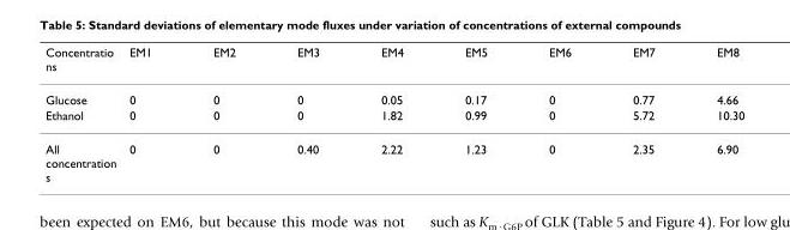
<table><thead><tr><td>Concentratio ns</td><td>EM1</td><td>EM2</td><td>EM3</td><td>EM4</td><td>EM5</td><td>EM6</td><td>EM7</td><td>EM8</td></tr></thead><tbody><tr><td>Glucose</td><td>0</td><td>0</td><td>0</td><td>0.05</td><td>0.17</td><td>0</td><td>0.77</td><td>4.66</td></tr><tr><td>Ethanol</td><td>0</td><td>0</td><td>0</td><td>1.82</td><td>0.99</td><td>0</td><td>5.72</td><td>10.30</td></tr><tr><td>All concentration s</td><td>0</td><td>0</td><td>0.40</td><td>2.22</td><td>1.23</td><td>0</td><td>2.35</td><td>6.90</td></tr></tbody></table>